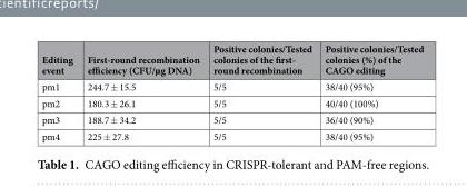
<table><thead><tr><td>Editing event</td><td>First-round recombination efficiency (CFU/µg DNA)</td><td>Positive colonies/Tested colonies of the first- round recombination</td><td>Positive colonies/Tested colonies (%) of the CAGO editing</td></tr></thead><tbody><tr><td>pm1</td><td>244.7 ± 15.5</td><td>5/5</td><td>38/40 (95%)</td></tr><tr><td>pm2</td><td>180.3 ± 26.1</td><td>5/5</td><td>40/40 (100%)</td></tr><tr><td>pm3</td><td>188.7 ± 34.2</td><td>5/5</td><td>36/40 (90%)</td></tr><tr><td>pm4</td><td>225 ± 27.8</td><td>5/5</td><td>38/40 (95%)</td></tr></tbody></table>